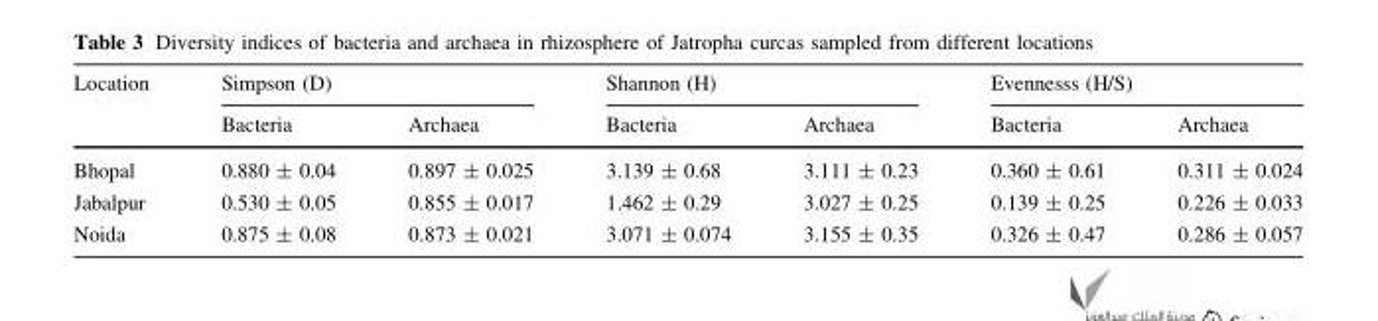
<table><thead><tr><td rowspan="2">Location</td><td colspan="2">Simpson (D)</td><td colspan="2">Shannon (H)</td><td colspan="2">Evennesss (H/S)</td></tr><tr><td>Bacteria</td><td>Archaea</td><td>Bacteria</td><td>Archaea</td><td>Bacteria</td><td>Archaea</td></tr></thead><tbody><tr><td>Bhopal</td><td>0.880 ± 0.04</td><td>0.897 ± 0.025</td><td>3.139 ± 0.68</td><td>3.111 ± 0.23</td><td>0.360 ± 0.61</td><td>0.311 ± 0.024</td></tr><tr><td>Jabalpur</td><td>0.530 ± 0.05</td><td>0.855 ± 0.017</td><td>1.462 ± 0.29</td><td>3.027 ± 0.25</td><td>0.139 ± 0.25</td><td>0.226 ± 0.033</td></tr><tr><td>Noida</td><td>0.875 ± 0.08</td><td>0.873 ± 0.021</td><td>3.071 ± 0.074</td><td>3.155 ± 0.35</td><td>0.326 ± 0.47</td><td>0.286 ± 0.057</td></tr></tbody></table>